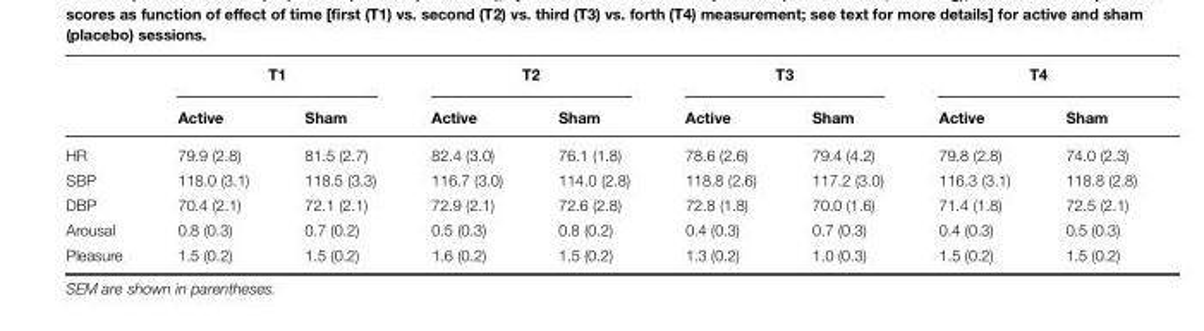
<table><thead><tr><td rowspan="2"></td><td colspan="2">T1</td><td colspan="2">T2</td><td colspan="2">T3</td><td colspan="2">T4</td></tr><tr><td>Active</td><td>Sham</td><td>Active</td><td>Sham</td><td>Active</td><td>Sham</td><td>Active</td><td>Sham</td></tr></thead><tbody><tr><td>HR</td><td>79.9 (2.8)</td><td>81.5 (2.7)</td><td>82.4 (3.0)</td><td>76.1 (1.8)</td><td>78.6 (2.6)</td><td>79.4 (4.2)</td><td>79.8 (2.8)</td><td>74.0 (2.3)</td></tr><tr><td>SBP</td><td>118.0 (3.1)</td><td>118.5 (3.3)</td><td>116.7 (3.0)</td><td>114.0 (2.8)</td><td>118.8 (2.6)</td><td>117.2 (3.0)</td><td>116.3 (3.1)</td><td>118.8 (2.8)</td></tr><tr><td>DBP</td><td>70.4 (2.1)</td><td>72.1 (2.1)</td><td>72.9 (2.1)</td><td>72.6 (2.8)</td><td>72.8 (1.8)</td><td>70.0 (1.6)</td><td>71.4 (1.8)</td><td>72.5 (2.1)</td></tr><tr><td>Arousal</td><td>0.8 (0.3)</td><td>0.7 (0.2)</td><td>0.5 (0.3)</td><td>0.8 (0.2)</td><td>0.4 (0.3)</td><td>0.7 (0.3)</td><td>0.4 (0.3)</td><td>0.5 (0.3)</td></tr><tr><td>Pleasure</td><td>1.5 (0.2)</td><td>1.5 (0.2)</td><td>1.6 (0.2)</td><td>1.5 (0.2)</td><td>1.3 (0.2)</td><td>1.0 (0.3)</td><td>1.5 (0.2)</td><td>1.5 (0.2)</td></tr></tbody></table>